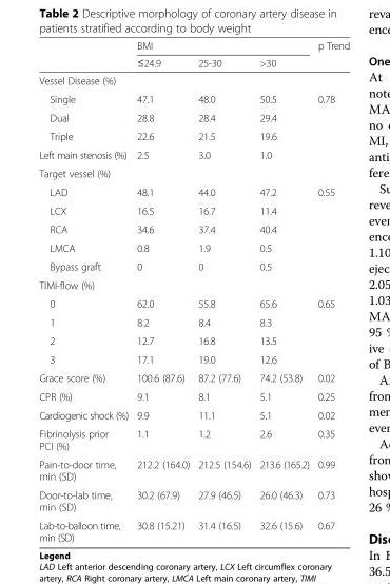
<table><thead><tr><td rowspan="2"></td><td colspan="3">BMI</td><td rowspan="2">p Trend</td></tr><tr><td>≤24.9</td><td>25-30</td><td>&gt;30</td></tr></thead><tbody><tr><td colspan="5">Vessel Disease (%)</td></tr><tr><td>Single</td><td>47.1</td><td>48.0</td><td>50.5</td><td>0.78</td></tr><tr><td>Dual</td><td>28.8</td><td>28.4</td><td>29.4</td><td></td></tr><tr><td>Triple</td><td>22.6</td><td>21.5</td><td>19.6</td><td></td></tr><tr><td>Left main stenosis (%)</td><td>2.5</td><td>3.0</td><td>1.0</td><td></td></tr><tr><td colspan="5">Target vessel (%)</td></tr><tr><td>LAD</td><td>48.1</td><td>44.0</td><td>47.2</td><td>0.55</td></tr><tr><td>LCX</td><td>16.5</td><td>16.7</td><td>11.4</td><td></td></tr><tr><td>RCA</td><td>34.6</td><td>37.4</td><td>40.4</td><td></td></tr><tr><td>LMCA</td><td>0.8</td><td>1.9</td><td>0.5</td><td></td></tr><tr><td>Bypass graft</td><td>0</td><td>0</td><td>0.5</td><td></td></tr><tr><td colspan="5">TIMI-flow (%)</td></tr><tr><td>0</td><td>62.0</td><td>55.8</td><td>65.6</td><td>0.65</td></tr><tr><td>1</td><td>8.2</td><td>8.4</td><td>8.3</td><td></td></tr><tr><td>2</td><td>12.7</td><td>16.8</td><td>13.5</td><td></td></tr><tr><td>3</td><td>17.1</td><td>19.0</td><td>12.6</td><td></td></tr><tr><td>Grace score (%)</td><td>100.6 (87.6)</td><td>87.2 (77.6)</td><td>74.2 (53.8)</td><td>0.02</td></tr><tr><td>CPR (%)</td><td>9.1</td><td>8.1</td><td>5.1</td><td>0.25</td></tr><tr><td>Cardiogenic shock (%)</td><td>9.9</td><td>11.1</td><td>5.1</td><td>0.02</td></tr><tr><td>Fibrinolysis prior PCI (%)</td><td>1.1</td><td>1.2</td><td>2.6</td><td>0.35</td></tr><tr><td>Pain-to-door time, min (SD)</td><td>212.2 (164.0)</td><td>212.5 (154.6)</td><td>213.6 (165.2)</td><td>0.99</td></tr><tr><td>Door-to-lab time, min (SD)</td><td>30.2 (67.9)</td><td>27.9 (46.5)</td><td>26.0 (46.3)</td><td>0.73</td></tr><tr><td>Lab-to-balloon time, min (SD)</td><td>30.8 (15.21)</td><td>31.4 (16.5)</td><td>32.6 (15.6)</td><td>0.67</td></tr></tbody></table>